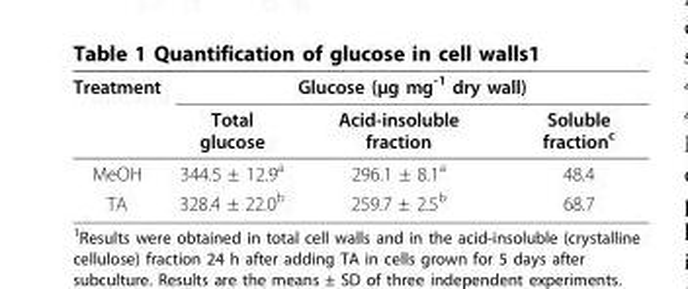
<table><thead><tr><td rowspan="2">Treatment</td><td colspan="3">Glucose (μg mg<sup>-1</sup> dry wall)</td></tr><tr><td>Total glucose</td><td>Acid-insoluble fraction</td><td>Soluble fraction<sup>c</sup></td></tr></thead><tbody><tr><td>MeOH</td><td>344.5 ± 12.9<sup>a</sup></td><td>296.1 ± 8.1<sup>a</sup></td><td>48.4</td></tr><tr><td>TA</td><td>328.4 ± 22.0<sup>b</sup></td><td>259.7 ± 2.5<sup>b</sup></td><td>68.7</td></tr></tbody></table>